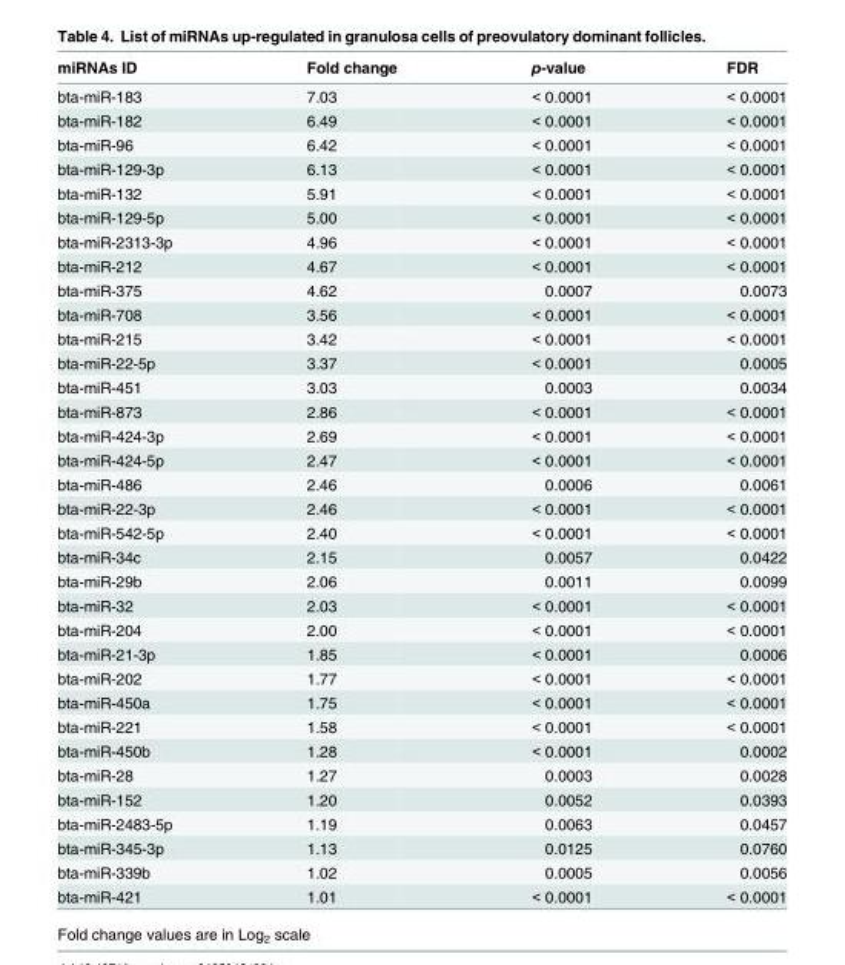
<table><thead><tr><td>miRNAs ID</td><td>Fold change</td><td>p-value</td><td>FDR</td></tr></thead><tbody><tr><td>bta-miR-183</td><td>7.03</td><td>&lt; 0.0001</td><td>&lt; 0.0001</td></tr><tr><td>bta-miR-182</td><td>6.49</td><td>&lt; 0.0001</td><td>&lt; 0.0001</td></tr><tr><td>bta-miR-96</td><td>6.42</td><td>&lt; 0.0001</td><td>&lt; 0.0001</td></tr><tr><td>bta-miR-129-3p</td><td>6.13</td><td>&lt; 0.0001</td><td>&lt; 0.0001</td></tr><tr><td>bta-miR-132</td><td>5.91</td><td>&lt; 0.0001</td><td>&lt; 0.0001</td></tr><tr><td>bta-miR-129-5p</td><td>5.00</td><td>&lt; 0.0001</td><td>&lt; 0.0001</td></tr><tr><td>bta-miR-2313-3p</td><td>4.96</td><td>&lt; 0.0001</td><td>&lt; 0.0001</td></tr><tr><td>bta-miR-212</td><td>4.67</td><td>&lt; 0.0001</td><td>&lt; 0.0001</td></tr><tr><td>bta-miR-375</td><td>4.62</td><td>0.0007</td><td>0.0073</td></tr><tr><td>bta-miR-708</td><td>3.56</td><td>&lt; 0.0001</td><td>&lt; 0.0001</td></tr><tr><td>bta-miR-215</td><td>3.42</td><td>&lt; 0.0001</td><td>&lt; 0.0001</td></tr><tr><td>bta-miR-22-5p</td><td>3.37</td><td>&lt; 0.0001</td><td>0.0005</td></tr><tr><td>bta-miR-451</td><td>3.03</td><td>0.0003</td><td>0.0034</td></tr><tr><td>bta-miR-873</td><td>2.86</td><td>&lt; 0.0001</td><td>&lt; 0.0001</td></tr><tr><td>bta-miR-424-3p</td><td>2.69</td><td>&lt; 0.0001</td><td>&lt; 0.0001</td></tr><tr><td>bta-miR-424-5p</td><td>2.47</td><td>&lt; 0.0001</td><td>&lt; 0.0001</td></tr><tr><td>bta-miR-486</td><td>2.46</td><td>0.0006</td><td>0.0061</td></tr><tr><td>bta-miR-22-3p</td><td>2.46</td><td>&lt; 0.0001</td><td>&lt; 0.0001</td></tr><tr><td>bta-miR-542-5p</td><td>2.40</td><td>&lt; 0.0001</td><td>&lt; 0.0001</td></tr><tr><td>bta-miR-34c</td><td>2.15</td><td>0.0057</td><td>0.0422</td></tr><tr><td>bta-miR-29b</td><td>2.06</td><td>0.0011</td><td>0.0099</td></tr><tr><td>bta-miR-32</td><td>2.03</td><td>&lt; 0.0001</td><td>&lt; 0.0001</td></tr><tr><td>bta-miR-204</td><td>2.00</td><td>&lt; 0.0001</td><td>&lt; 0.0001</td></tr><tr><td>bta-miR-21-3p</td><td>1.85</td><td>&lt; 0.0001</td><td>0.0006</td></tr><tr><td>bta-miR-202</td><td>1.77</td><td>&lt; 0.0001</td><td>&lt; 0.0001</td></tr><tr><td>bta-miR-450a</td><td>1.75</td><td>&lt; 0.0001</td><td>&lt; 0.0001</td></tr><tr><td>bta-miR-221</td><td>1.58</td><td>&lt; 0.0001</td><td>&lt; 0.0001</td></tr><tr><td>bta-miR-450b</td><td>1.28</td><td>&lt; 0.0001</td><td>0.0002</td></tr><tr><td>bta-miR-28</td><td>1.27</td><td>0.0003</td><td>0.0028</td></tr><tr><td>bta-miR-152</td><td>1.20</td><td>0.0052</td><td>0.0393</td></tr><tr><td>bta-miR-2483-5p</td><td>1.19</td><td>0.0063</td><td>0.0457</td></tr><tr><td>bta-miR-345-3p</td><td>1.13</td><td>0.0125</td><td>0.0760</td></tr><tr><td>bta-miR-339b</td><td>1.02</td><td>0.0005</td><td>0.0056</td></tr><tr><td>bta-miR-421</td><td>1.01</td><td>&lt; 0.0001</td><td>&lt; 0.0001</td></tr></tbody></table>